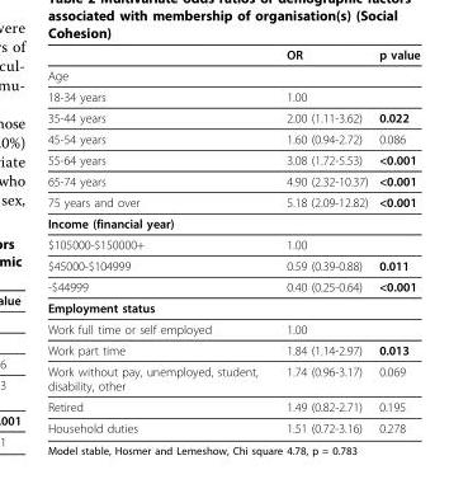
<table><thead><tr><td></td><td>OR</td><td>p value</td></tr></thead><tbody><tr><td colspan="3">Age</td></tr><tr><td>18-34 years</td><td>1.00</td><td></td></tr><tr><td>35-44 years</td><td>2.00 (1.11-3.62)</td><td>0.022</td></tr><tr><td>45-54 years</td><td>1.60 (0.94-2.72)</td><td>0.086</td></tr><tr><td>55-64 years</td><td>3.08 (1.72-5.53)</td><td>&lt;0.001</td></tr><tr><td>65-74 years</td><td>4.90 (2.32-10.37)</td><td>&lt;0.001</td></tr><tr><td>75 years and over</td><td>5.18 (2.09-12.82)</td><td>&lt;0.001</td></tr><tr><td colspan="3">Income (financial year)</td></tr><tr><td>$105000-$150000+</td><td>1.00</td><td></td></tr><tr><td>$45000-$104999</td><td>0.59 (0.39-0.88)</td><td>0.011</td></tr><tr><td>-$44999</td><td>0.40 (0.25-0.64)</td><td>&lt;0.001</td></tr><tr><td colspan="3">Employment status</td></tr><tr><td>Work full time or self employed</td><td>1.00</td><td></td></tr><tr><td>Work part time</td><td>1.84 (1.14-2.97)</td><td>0.013</td></tr><tr><td>Work without pay, unemployed, student, disability, other</td><td>1.74 (0.96-3.17)</td><td>0.069</td></tr><tr><td>Retired</td><td>1.49 (0.82-2.71)</td><td>0.195</td></tr><tr><td>Household duties</td><td>1.51 (0.72-3.16)</td><td>0.278</td></tr></tbody></table>